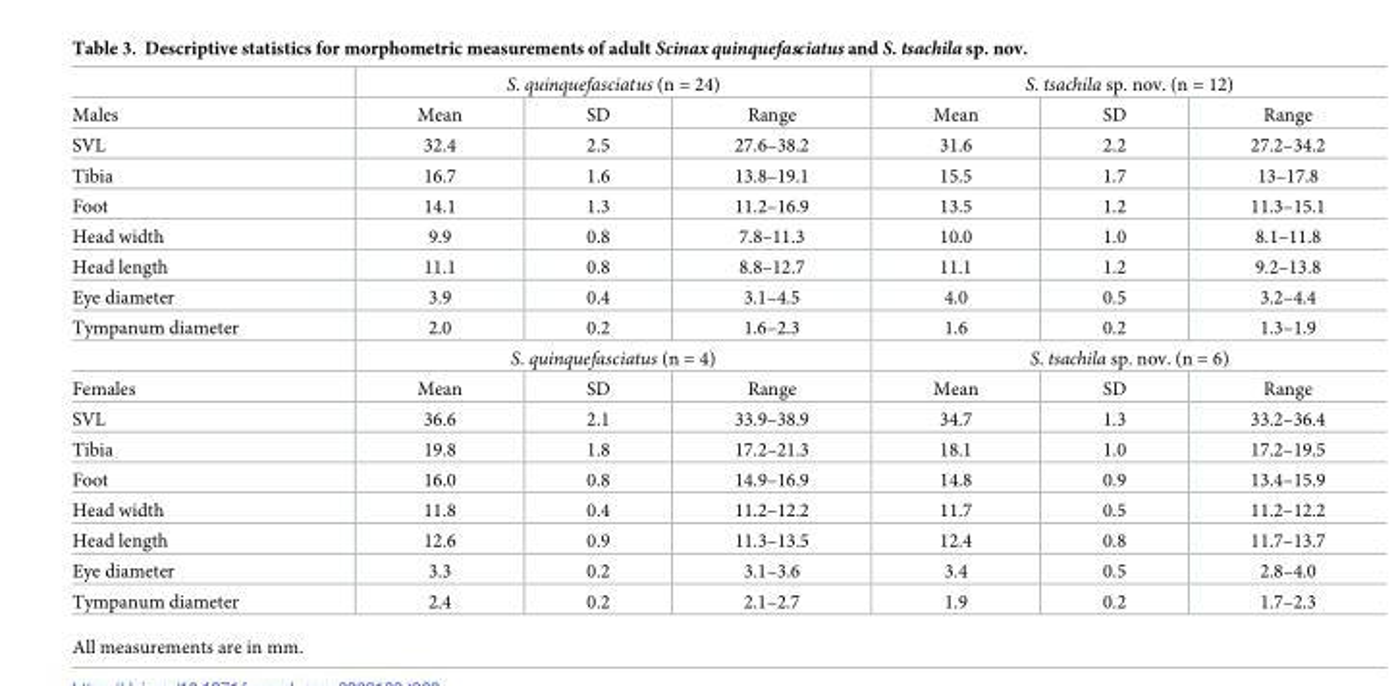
<table><thead><tr><td rowspan="2">Males</td><td colspan="3">S. quinquefasciatus (n = 24)</td><td colspan="3">S. tsachila sp. nov. (n = 12)</td></tr><tr><td>Mean</td><td>SD</td><td>Range</td><td>Mean</td><td>SD</td><td>Range</td></tr></thead><tbody><tr><td>SVL</td><td>32.4</td><td>2.5</td><td>27.6–38.2</td><td>31.6</td><td>2.2</td><td>27.2–34.2</td></tr><tr><td>Tibia</td><td>16.7</td><td>1.6</td><td>13.8–19.1</td><td>15.5</td><td>1.7</td><td>13–17.8</td></tr><tr><td>Foot</td><td>14.1</td><td>1.3</td><td>11.2–16.9</td><td>13.5</td><td>1.2</td><td>11.3–15.1</td></tr><tr><td>Head width</td><td>9.9</td><td>0.8</td><td>7.8–11.3</td><td>10.0</td><td>1.0</td><td>8.1–11.8</td></tr><tr><td>Head length</td><td>11.1</td><td>0.8</td><td>8.8–12.7</td><td>11.1</td><td>1.2</td><td>9.2–13.8</td></tr><tr><td>Eye diameter</td><td>3.9</td><td>0.4</td><td>3.1–4.5</td><td>4.0</td><td>0.5</td><td>3.2–4.4</td></tr><tr><td rowspan="2">Tympanum diameter</td><td>2.0</td><td>0.2</td><td>1.6–2.3</td><td>1.6</td><td>0.2</td><td>1.3–1.9</td></tr><tr><td colspan="3">S. quinquefasciatus (n = 4)</td><td colspan="3">S. tsachila sp. nov. (n = 6)</td></tr><tr><td>Females</td><td>Mean</td><td>SD</td><td>Range</td><td>Mean</td><td>SD</td><td>Range</td></tr><tr><td>SVL</td><td>36.6</td><td>2.1</td><td>33.9–38.9</td><td>34.7</td><td>1.3</td><td>33.2–36.4</td></tr><tr><td>Tibia</td><td>19.8</td><td>1.8</td><td>17.2–21.3</td><td>18.1</td><td>1.0</td><td>17.2–19.5</td></tr><tr><td>Foot</td><td>16.0</td><td>0.8</td><td>14.9–16.9</td><td>14.8</td><td>0.9</td><td>13.4–15.9</td></tr><tr><td>Head width</td><td>11.8</td><td>0.4</td><td>11.2–12.2</td><td>11.7</td><td>0.5</td><td>11.2–12.2</td></tr><tr><td>Head length</td><td>12.6</td><td>0.9</td><td>11.3–13.5</td><td>12.4</td><td>0.8</td><td>11.7–13.7</td></tr><tr><td>Eye diameter</td><td>3.3</td><td>0.2</td><td>3.1–3.6</td><td>3.4</td><td>0.5</td><td>2.8–4.0</td></tr><tr><td>Tympanum diameter</td><td>2.4</td><td>0.2</td><td>2.1–2.7</td><td>1.9</td><td>0.2</td><td>1.7–2.3</td></tr></tbody></table>